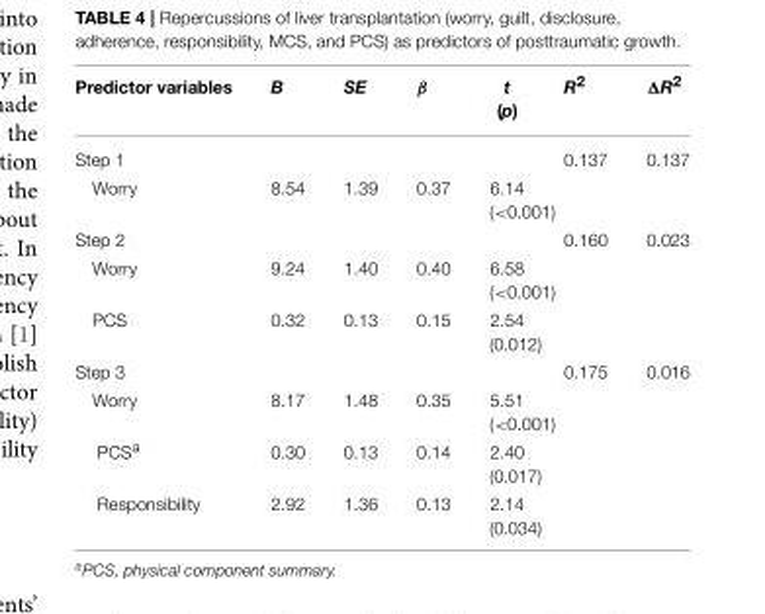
<table><thead><tr><td>Predictor variables</td><td>B</td><td>SE</td><td>β</td><td>t (p)</td><td>R<sup>2</sup></td><td>ΔR<sup>2</sup></td></tr></thead><tbody><tr><td>Step 1</td><td></td><td></td><td></td><td></td><td>0.137</td><td>0.137</td></tr><tr><td>Worry</td><td>8.54</td><td>1.39</td><td>0.37</td><td>6.14 (&lt;0.001)</td><td></td><td></td></tr><tr><td>Step 2</td><td></td><td></td><td></td><td></td><td>0.160</td><td>0.023</td></tr><tr><td>Worry</td><td>9.24</td><td>1.40</td><td>0.40</td><td>6.58 (&lt;0.001)</td><td></td><td></td></tr><tr><td>PCS</td><td>0.32</td><td>0.13</td><td>0.15</td><td>2.54 (0.012)</td><td></td><td></td></tr><tr><td>Step 3</td><td></td><td></td><td></td><td></td><td>0.175</td><td>0.016</td></tr><tr><td>Worry</td><td>8.17</td><td>1.48</td><td>0.35</td><td>5.51 (&lt;0.001)</td><td></td><td></td></tr><tr><td>PCS<sup>a</sup></td><td>0.30</td><td>0.13</td><td>0.14</td><td>2.40 (0.017)</td><td></td><td></td></tr><tr><td>Responsibility</td><td>2.92</td><td>1.36</td><td>0.13</td><td>2.14 (0.034)</td><td></td><td></td></tr></tbody></table>